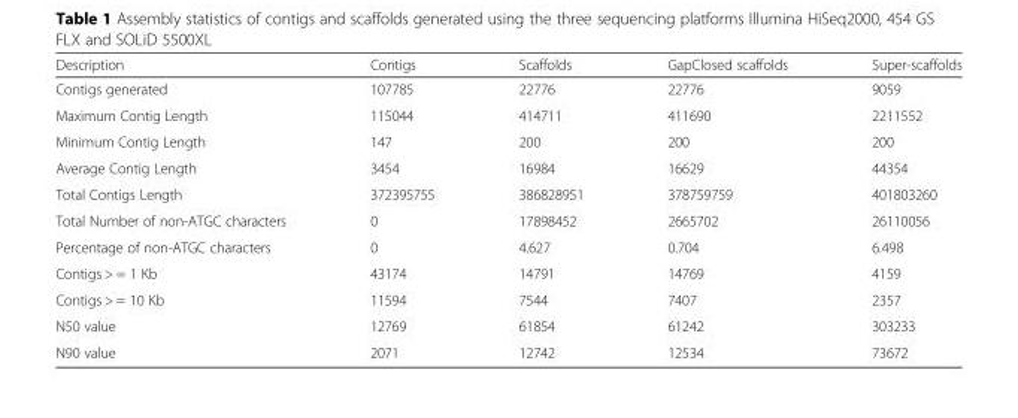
<table><thead><tr><td>Description</td><td>Contigs</td><td>Scaffolds</td><td>GapClosed scaffolds</td><td>Super-scaffolds</td></tr></thead><tbody><tr><td>Contigs generated</td><td>107785</td><td>22776</td><td>22776</td><td>9059</td></tr><tr><td>Maximum Contig Length</td><td>115044</td><td>414711</td><td>411690</td><td>2211552</td></tr><tr><td>Minimum Contig Length</td><td>147</td><td>200</td><td>200</td><td>200</td></tr><tr><td>Average Contig Length</td><td>3454</td><td>16984</td><td>16629</td><td>44354</td></tr><tr><td>Total Contigs Length</td><td>372395755</td><td>386828951</td><td>378759759</td><td>401803260</td></tr><tr><td>Total Number of non-ATGC characters</td><td>0</td><td>17898452</td><td>2665702</td><td>26110056</td></tr><tr><td>Percentage of non-ATGC characters</td><td>0</td><td>4.627</td><td>0.704</td><td>6.498</td></tr><tr><td>Contigs &gt; = 1 Kb</td><td>43174</td><td>14791</td><td>14769</td><td>4159</td></tr><tr><td>Contigs &gt; = 10 Kb</td><td>11594</td><td>7544</td><td>7407</td><td>2357</td></tr><tr><td>N50 value</td><td>12769</td><td>61854</td><td>61242</td><td>303233</td></tr><tr><td>N90 value</td><td>2071</td><td>12742</td><td>12534</td><td>73672</td></tr></tbody></table>